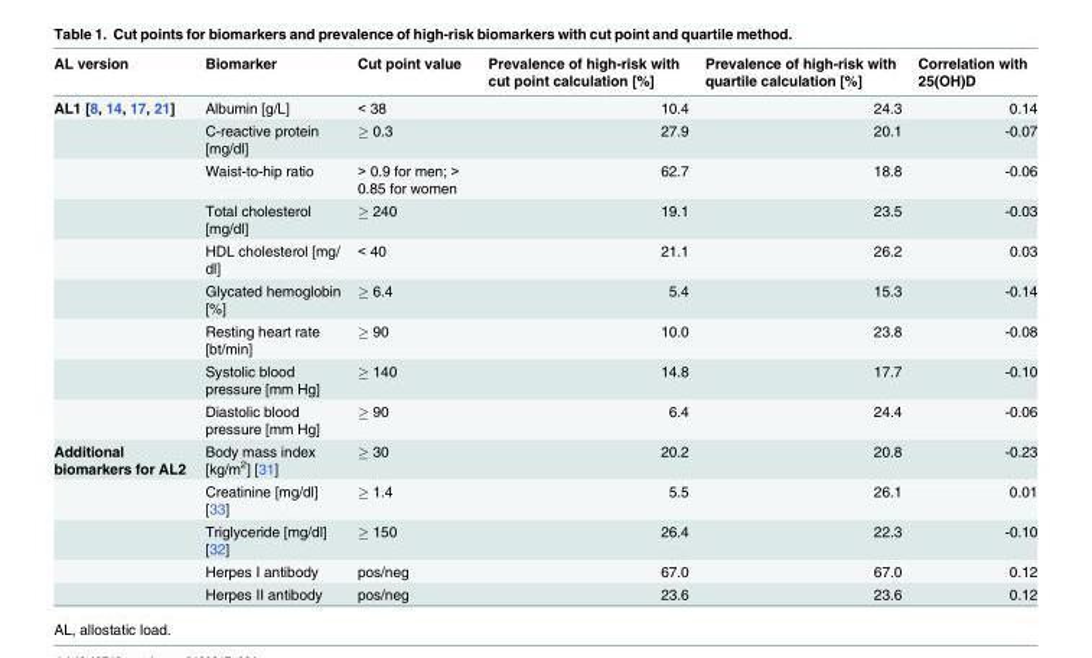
<table><thead><tr><td>AL version</td><td>Biomarker</td><td>Cut point value</td><td>Prevalence of high-risk with cut point calculation [%]</td><td>Prevalence of high-risk with quartile calculation [%]</td><td>Correlation with 25(OH)D</td></tr></thead><tbody><tr><td rowspan="9">AL1 [8, 14, 17, 21]</td><td>Albumin [g/L]</td><td>&lt; 38</td><td>10.4</td><td>24.3</td><td>0.14</td></tr><tr><td>C-reactive protein [mg/dl]</td><td>≥ 0.3</td><td>27.9</td><td>20.1</td><td>-0.07</td></tr><tr><td>Waist-to-hip ratio</td><td>&gt; 0.9 for men; &gt; 0.85 for women</td><td>62.7</td><td>18.8</td><td>-0.06</td></tr><tr><td>Total cholesterol [mg/dl]</td><td>≥ 240</td><td>19.1</td><td>23.5</td><td>-0.03</td></tr><tr><td>HDL cholesterol [mg/ dl]</td><td>&lt; 40</td><td>21.1</td><td>26.2</td><td>0.03</td></tr><tr><td>Glycated hemoglobin [%]</td><td>≥ 6.4</td><td>5.4</td><td>15.3</td><td>-0.14</td></tr><tr><td>Resting heart rate [bt/min]</td><td>≥ 90</td><td>10.0</td><td>23.8</td><td>-0.08</td></tr><tr><td>Systolic blood pressure [mm Hg]</td><td>≥ 140</td><td>14.8</td><td>17.7</td><td>-0.10</td></tr><tr><td>Diastolic blood pressure [mm Hg]</td><td>≥ 90</td><td>6.4</td><td>24.4</td><td>-0.06</td></tr><tr><td rowspan="5">Additional biomarkers for AL2</td><td>Body mass index [kg/m<sup>2</sup>] [31]</td><td>≥ 30</td><td>20.2</td><td>20.8</td><td>-0.23</td></tr><tr><td>Creatinine [mg/dl] [33]</td><td>≥ 1.4</td><td>5.5</td><td>26.1</td><td>0.01</td></tr><tr><td>Triglyceride [mg/dl] [32]</td><td>≥ 150</td><td>26.4</td><td>22.3</td><td>-0.10</td></tr><tr><td>Herpes I antibody</td><td>pos/neg</td><td>67.0</td><td>67.0</td><td>0.12</td></tr><tr><td>Herpes II antibody</td><td>pos/neg</td><td>23.6</td><td>23.6</td><td>0.12</td></tr></tbody></table>